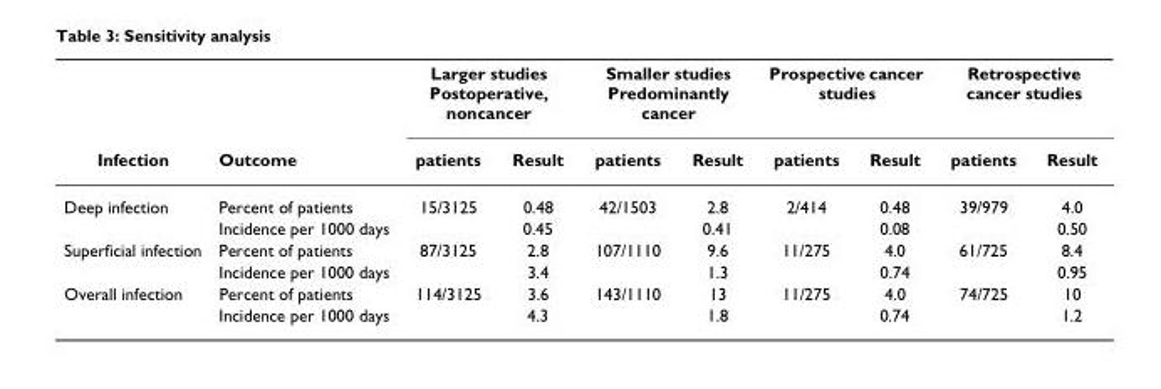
<table><thead><tr><td rowspan="2">Infection</td><td rowspan="2">Outcome</td><td colspan="2">Larger studies Postoperative, noncancer</td><td colspan="2">Smaller studies Predominantly cancer</td><td colspan="2">Prospective cancer studies</td><td colspan="2">Retrospective cancer studies</td></tr><tr><td>patients</td><td>Result</td><td>patients</td><td>Result</td><td>patients</td><td>Result</td><td>patients</td><td>Result</td></tr></thead><tbody><tr><td rowspan="2">Deep infection</td><td>Percent of patients</td><td>15/3125</td><td>0.48</td><td>42/1503</td><td>2.8</td><td>2/414</td><td>0.48</td><td>39/979</td><td>4.0</td></tr><tr><td>Incidence per 1000 days</td><td></td><td>0.45</td><td></td><td>0.41</td><td></td><td>0.08</td><td></td><td>0.50</td></tr><tr><td rowspan="2">Superficial infection</td><td>Percent of patients</td><td>87/3125</td><td>2.8</td><td>107/1110</td><td>9.6</td><td>11/275</td><td>4.0</td><td>61/725</td><td>8.4</td></tr><tr><td>Incidence per 1000 days</td><td></td><td>3.4</td><td></td><td>1.3</td><td></td><td>0.74</td><td></td><td>0.95</td></tr><tr><td rowspan="2">Overall infection</td><td>Percent of patients</td><td>114/3125</td><td>3.6</td><td>143/1110</td><td>13</td><td>11/275</td><td>4.0</td><td>74/725</td><td>10</td></tr><tr><td>Incidence per 1000 days</td><td></td><td>4.3</td><td></td><td>1.8</td><td></td><td>0.74</td><td></td><td>1.2</td></tr></tbody></table>